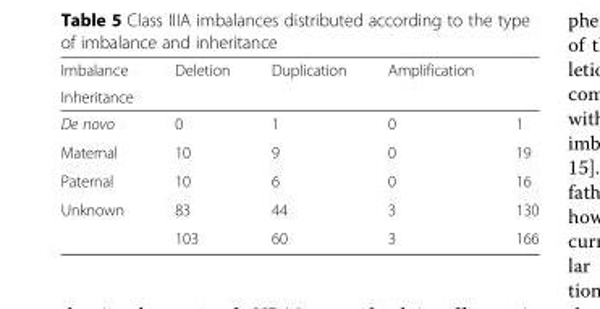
<table><thead><tr><td rowspan="2">Imbalance Inheritance</td><td rowspan="2">Deletion</td><td rowspan="2">Duplication</td><td rowspan="2">Amplification</td><td rowspan="2"></td></tr><tr></tr></thead><tbody><tr><td>De novo</td><td>0</td><td>1</td><td>0</td><td>1</td></tr><tr><td>Maternal</td><td>10</td><td>9</td><td>0</td><td>19</td></tr><tr><td>Paternal</td><td>10</td><td>6</td><td>0</td><td>16</td></tr><tr><td rowspan="2">Unknown</td><td>83</td><td>44</td><td>3</td><td>130</td></tr><tr><td>103</td><td>60</td><td>3</td><td>166</td></tr></tbody></table>